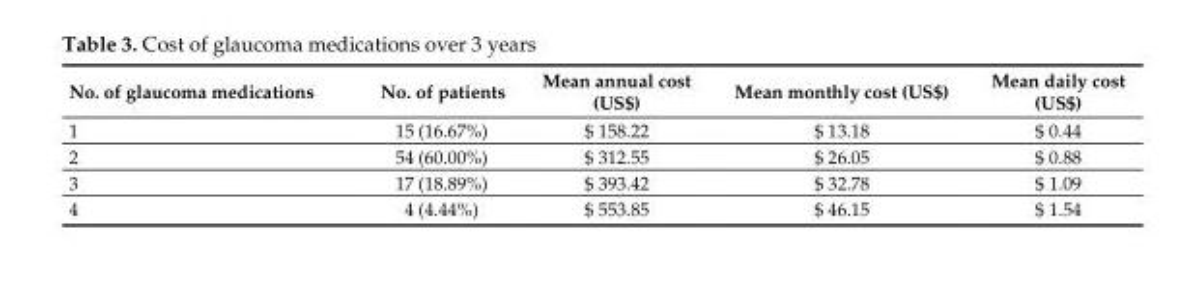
<table><thead><tr><td>No. of glaucoma medications</td><td>No. of patients</td><td>Mean annual cost (uS$)</td><td>Mean monthly cost (uS$)</td><td>Mean daily cost (uS$)</td></tr></thead><tbody><tr><td>1</td><td>15 (16.67%)</td><td>$ 158.22</td><td>$ 13.18</td><td>$ 0.44</td></tr><tr><td>2</td><td>54 (60.00%)</td><td>$ 312.55</td><td>$ 26.05</td><td>$ 0.88</td></tr><tr><td>3</td><td>17 (18.89%)</td><td>$ 393.42</td><td>$ 32.78</td><td>$ 1.09</td></tr><tr><td>4</td><td>4 (4.44%)</td><td>$ 553.85</td><td>$ 46.15</td><td>$ 1.54</td></tr></tbody></table>